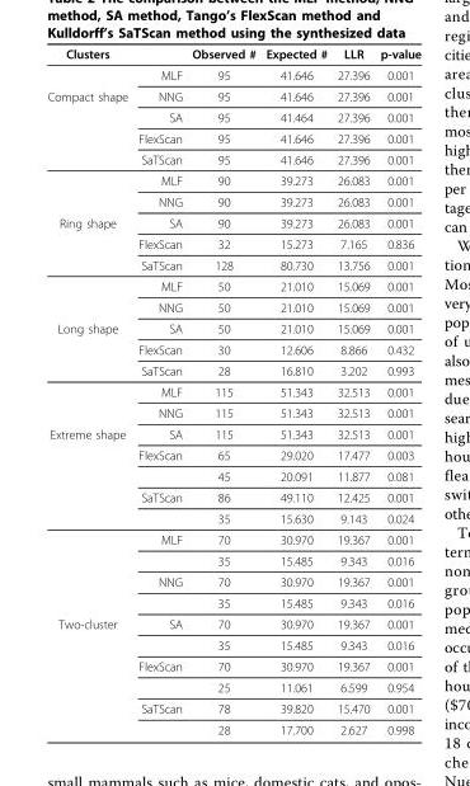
<table><thead><tr><td>Clusters</td><td></td><td>Observed #</td><td>Expected #</td><td>LLR</td><td>p-value</td></tr></thead><tbody><tr><td></td><td>MLF</td><td>95</td><td>41.646</td><td>27.396</td><td>0.001</td></tr><tr><td rowspan="6">Compact shape</td><td>NNG</td><td>95</td><td>41.646</td><td>27.396</td><td>0.001</td></tr><tr><td>SA</td><td>95</td><td>41.464</td><td>27.396</td><td>0.001</td></tr><tr><td>FlexScan</td><td>95</td><td>41.646</td><td>27.396</td><td>0.001</td></tr><tr><td>SaTScan</td><td>95</td><td>41.646</td><td>27.396</td><td>0.001</td></tr><tr><td>MLF</td><td>90</td><td>39.273</td><td>26.083</td><td>0.001</td></tr><tr><td>NNG</td><td>90</td><td>39.273</td><td>26.083</td><td>0.001</td></tr><tr><td rowspan="5">Ring shape</td><td>SA</td><td>90</td><td>39.273</td><td>26.083</td><td>0.001</td></tr><tr><td>FlexScan</td><td>32</td><td>15.273</td><td>7.165</td><td>0.836</td></tr><tr><td>SaTScan</td><td>128</td><td>80.730</td><td>13.756</td><td>0.001</td></tr><tr><td>MLF</td><td>50</td><td>21.010</td><td>15.069</td><td>0.001</td></tr><tr><td>NNG</td><td>50</td><td>21.010</td><td>15.069</td><td>0.001</td></tr><tr><td rowspan="5">Long shape</td><td>SA</td><td>50</td><td>21.010</td><td>15.069</td><td>0.001</td></tr><tr><td>FlexScan</td><td>30</td><td>12.606</td><td>8.866</td><td>0.432</td></tr><tr><td>SaTScan</td><td>28</td><td>16.810</td><td>3.202</td><td>0.993</td></tr><tr><td>MLF</td><td>115</td><td>51.343</td><td>32.513</td><td>0.001</td></tr><tr><td>NNG</td><td>115</td><td>51.343</td><td>32.513</td><td>0.001</td></tr><tr><td rowspan="9">Extreme shape</td><td>SA</td><td>115</td><td>51.343</td><td>32.513</td><td>0.001</td></tr><tr><td>FlexScan</td><td>65</td><td>29.020</td><td>17.477</td><td>0.003</td></tr><tr><td></td><td>45</td><td>20.091</td><td>11.877</td><td>0.081</td></tr><tr><td>SaTScan</td><td>86</td><td>49.110</td><td>12.425</td><td>0.001</td></tr><tr><td></td><td>35</td><td>15.630</td><td>9.143</td><td>0.024</td></tr><tr><td>MLF</td><td>70</td><td>30.970</td><td>19.367</td><td>0.001</td></tr><tr><td></td><td>35</td><td>15.485</td><td>9.343</td><td>0.016</td></tr><tr><td>NNG</td><td>70</td><td>30.970</td><td>19.367</td><td>0.001</td></tr><tr><td></td><td>35</td><td>15.485</td><td>9.343</td><td>0.016</td></tr><tr><td rowspan="6">Two-cluster</td><td>SA</td><td>70</td><td>30.970</td><td>19.367</td><td>0.001</td></tr><tr><td></td><td>35</td><td>15.485</td><td>9.343</td><td>0.016</td></tr><tr><td>FlexScan</td><td>70</td><td>30.970</td><td>19.367</td><td>0.001</td></tr><tr><td></td><td>25</td><td>11.061</td><td>6.599</td><td>0.954</td></tr><tr><td>SaTScan</td><td>78</td><td>39.820</td><td>15.470</td><td>0.001</td></tr><tr><td></td><td>28</td><td>17.700</td><td>2.627</td><td>0.998</td></tr></tbody></table>